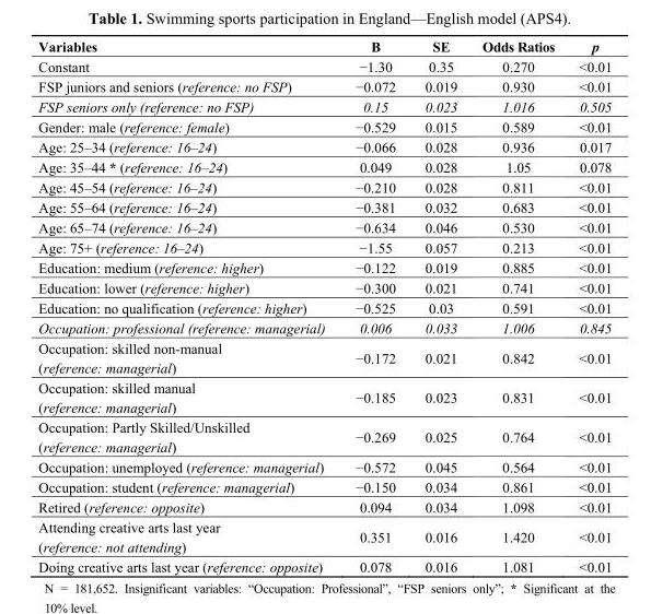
<table><thead><tr><td>Variables</td><td>B</td><td>SE</td><td>Odds Ratios</td><td>p</td></tr></thead><tbody><tr><td>Constant</td><td>−1.30</td><td>0.35</td><td>0.270</td><td>&lt;0.01</td></tr><tr><td>FSP juniors and seniors (reference: no FSP)</td><td>−0.072</td><td>0.019</td><td>0.930</td><td>&lt;0.01</td></tr><tr><td>FSP seniors only (reference: no FSP)</td><td>0.15</td><td>0.023</td><td>1.016</td><td>0.505</td></tr><tr><td>Gender: male (reference: female)</td><td>−0.529</td><td>0.015</td><td>0.589</td><td>&lt;0.01</td></tr><tr><td>Age: 25–34 (reference: 16–24)</td><td>−0.066</td><td>0.028</td><td>0.936</td><td>0.017</td></tr><tr><td>Age: 35–44 * (reference: 16–24)</td><td>0.049</td><td>0.028</td><td>1.05</td><td>0.078</td></tr><tr><td>Age: 45–54 (reference: 16–24)</td><td>−0.210</td><td>0.028</td><td>0.811</td><td>&lt;0.01</td></tr><tr><td>Age: 55–64 (reference: 16–24)</td><td>−0.381</td><td>0.032</td><td>0.683</td><td>&lt;0.01</td></tr><tr><td>Age: 65–74 (reference: 16–24)</td><td>−0.634</td><td>0.046</td><td>0.530</td><td>&lt;0.01</td></tr><tr><td>Age: 75+ (reference: 16–24)</td><td>−1.55</td><td>0.057</td><td>0.213</td><td>&lt;0.01</td></tr><tr><td>Education: medium (reference: higher)</td><td>−0.122</td><td>0.019</td><td>0.885</td><td>&lt;0.01</td></tr><tr><td>Education: lower (reference: higher)</td><td>−0.300</td><td>0.021</td><td>0.741</td><td>&lt;0.01</td></tr><tr><td>Education: no qualification (reference: higher)</td><td>−0.525</td><td>0.03</td><td>0.591</td><td>&lt;0.01</td></tr><tr><td>Occupation: professional (reference: managerial)</td><td>0.006</td><td>0.033</td><td>1.006</td><td>0.845</td></tr><tr><td>Occupation: skilled non-manual (reference: managerial)</td><td>−0.172</td><td>0.021</td><td>0.842</td><td>&lt;0.01</td></tr><tr><td>Occupation: skilled manual (reference: managerial)</td><td>−0.185</td><td>0.023</td><td>0.831</td><td>&lt;0.01</td></tr><tr><td>Occupation: Partly Skilled/Unskilled (reference: managerial)</td><td>−0.269</td><td>0.025</td><td>0.764</td><td>&lt;0.01</td></tr><tr><td>Occupation: unemployed (reference: managerial)</td><td>−0.572</td><td>0.045</td><td>0.564</td><td>&lt;0.01</td></tr><tr><td>Occupation: student (reference: managerial)</td><td>−0.150</td><td>0.034</td><td>0.861</td><td>&lt;0.01</td></tr><tr><td>Retired (reference: opposite)</td><td>0.094</td><td>0.034</td><td>1.098</td><td>&lt;0.01</td></tr><tr><td>Attending creative arts last year (reference: not attending)</td><td>0.351</td><td>0.016</td><td>1.420</td><td>&lt;0.01</td></tr><tr><td>Doing creative arts last year (reference: opposite)</td><td>0.078</td><td>0.016</td><td>1.081</td><td>&lt;0.01</td></tr></tbody></table>